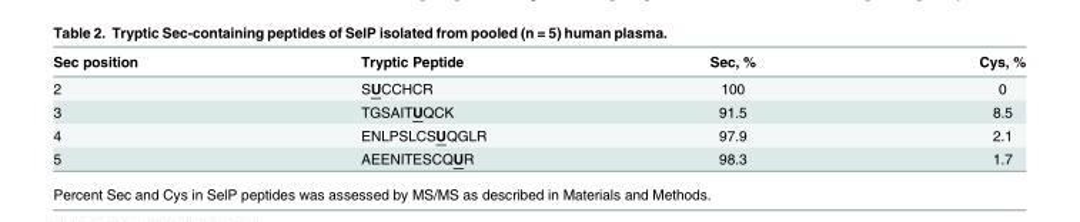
<table><thead><tr><td>Sec position</td><td>Tryptic Peptide</td><td>Sec, %</td><td>Cys, %</td></tr></thead><tbody><tr><td>2</td><td>SUCCHCR</td><td>100</td><td>0</td></tr><tr><td>3</td><td>TGSAITUQCK</td><td>91.5</td><td>8.5</td></tr><tr><td>4</td><td>ENLPSLCSUQGLR</td><td>97.9</td><td>2.1</td></tr><tr><td>5</td><td>AEENITESCQUR</td><td>98.3</td><td>1.7</td></tr></tbody></table>